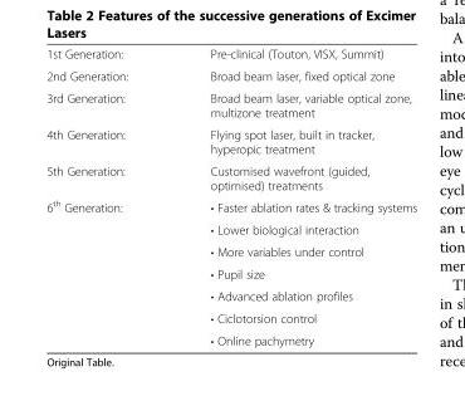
<table><tbody><tr><td>1st Generation:</td><td>Pre-clinical (Touton, VISX, Summit)</td></tr><tr><td>2nd Generation:</td><td>Broad beam laser, fixed optical zone</td></tr><tr><td>3rd Generation:</td><td>Broad beam laser, variable optical zone, multizone treatment</td></tr><tr><td>4th Generation:</td><td>Flying spot laser, built in tracker, hyperopic treatment</td></tr><tr><td>5th Generation:</td><td>Customised wavefront (guided, optimised) treatments</td></tr><tr><td rowspan="7">6<sup>th</sup> Generation:</td><td>• Faster ablation rates &amp; tracking systems</td></tr><tr><td>• Lower biological interaction</td></tr><tr><td>• More variables under control</td></tr><tr><td>• Pupil size</td></tr><tr><td>• Advanced ablation profiles</td></tr><tr><td>• Ciclotorsion control</td></tr><tr><td>• Online pachymetry</td></tr></tbody></table>